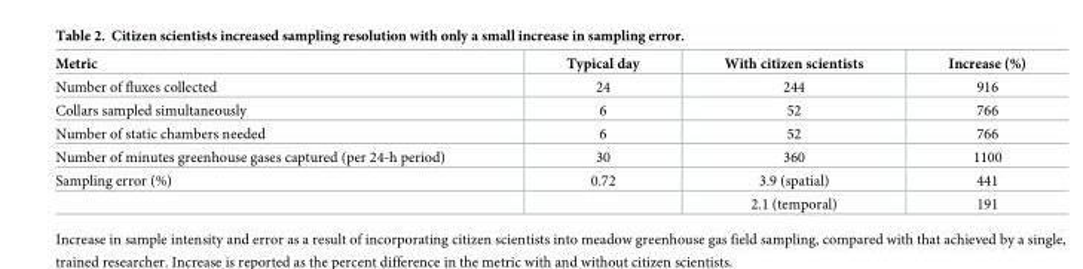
<table><thead><tr><td>Metric</td><td>Typical day</td><td>With citizen scientists</td><td>Increase (%)</td></tr></thead><tbody><tr><td>Number of fluxes collected</td><td>24</td><td>244</td><td>916</td></tr><tr><td>Collars sampled simultaneously</td><td>6</td><td>52</td><td>766</td></tr><tr><td>Number of static chambers needed</td><td>6</td><td>52</td><td>766</td></tr><tr><td>Number of minutes greenhouse gases captured (per 24-h period)</td><td>30</td><td>360</td><td>1100</td></tr><tr><td rowspan="2">Sampling error (%)</td><td>0.72</td><td>3.9 (spatial)</td><td>441</td></tr><tr><td></td><td>2.1 (temporal)</td><td>191</td></tr></tbody></table>